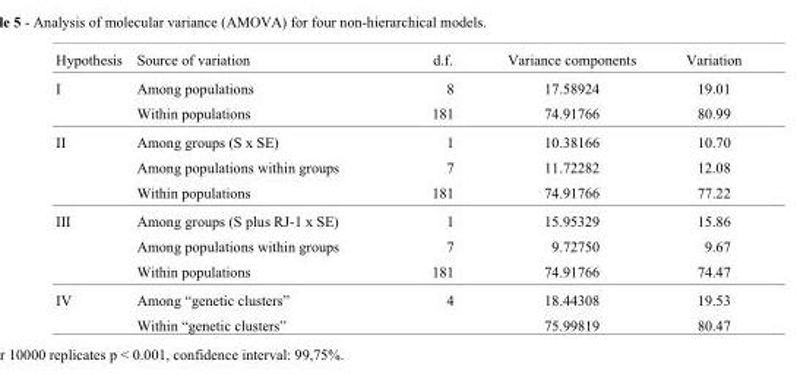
<table><thead><tr><td>Hypothesis</td><td>Source of variation</td><td>d.f.</td><td>Variance components</td><td>Variation</td></tr></thead><tbody><tr><td rowspan="2">I</td><td>Among populations</td><td>8</td><td>17.58924</td><td>19.01</td></tr><tr><td>Within populations</td><td>181</td><td>74.91766</td><td>80.99</td></tr><tr><td rowspan="3">II</td><td>Among groups (S x SE)</td><td>1</td><td>10.38166</td><td>10.70</td></tr><tr><td>Among populations within groups</td><td>7</td><td>11.72282</td><td>12.08</td></tr><tr><td>Within populations</td><td>181</td><td>74.91766</td><td>77.22</td></tr><tr><td rowspan="3">III</td><td>Among groups (S plus RJ-1 x SE)</td><td>1</td><td>15.95329</td><td>15.86</td></tr><tr><td>Among populations within groups</td><td>7</td><td>9.72750</td><td>9.67</td></tr><tr><td>Within populations</td><td>181</td><td>74.91766</td><td>74.47</td></tr><tr><td rowspan="2">IV</td><td>Among “genetic clusters”</td><td>4</td><td>18.44308</td><td>19.53</td></tr><tr><td>Within “genetic clusters”</td><td></td><td>75.99819</td><td>80.47</td></tr></tbody></table>